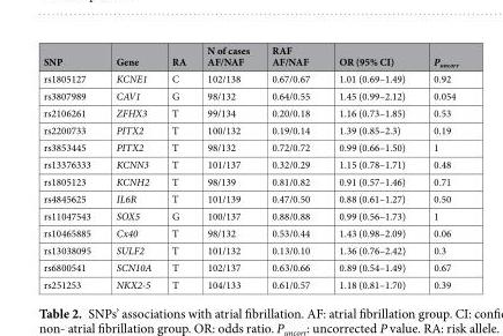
<table><thead><tr><td>SNP</td><td>Gene</td><td>RA</td><td>N of cases AF/NAF</td><td>RAF AF/NAF</td><td>OR (95% CI)</td><td>P<sub>uncorr</sub></td></tr></thead><tbody><tr><td>rs1805127</td><td>KCNE1</td><td>C</td><td>102/138</td><td>0.67/0.67</td><td>1.01 (0.69–1.49)</td><td>0.92</td></tr><tr><td>rs3807989</td><td>CAV1</td><td>G</td><td>98/132</td><td>0.64/0.55</td><td>1.45 (0.99–2.12)</td><td>0.054</td></tr><tr><td>rs2106261</td><td>ZFHX3</td><td>T</td><td>99/134</td><td>0.20/0.18</td><td>1.16 (0.73–1.85)</td><td>0.53</td></tr><tr><td>rs2200733</td><td>PITX2</td><td>T</td><td>100/132</td><td>0.19/0.14</td><td>1.39 (0.85–2.3)</td><td>0.19</td></tr><tr><td>rs3853445</td><td>PITX2</td><td>T</td><td>98/132</td><td>0.72/0.72</td><td>0.99 (0.66–1.50)</td><td>1</td></tr><tr><td>rs13376333</td><td>KCNN3</td><td>T</td><td>101/137</td><td>0.32/0.29</td><td>1.15 (0.78–1.71)</td><td>0.48</td></tr><tr><td>rs1805123</td><td>KCNH2</td><td>T</td><td>98/139</td><td>0.81/0.82</td><td>0.91 (0.57–1.46)</td><td>0.71</td></tr><tr><td>rs4845625</td><td>IL6R</td><td>T</td><td>101/139</td><td>0.47/0.50</td><td>0.88 (0.61–1.27)</td><td>0.50</td></tr><tr><td>rs11047543</td><td>SOX5</td><td>G</td><td>100/137</td><td>0.88/0.88</td><td>0.99 (0.56–1.73)</td><td>1</td></tr><tr><td>rs10465885</td><td>Cx40</td><td>T</td><td>98/132</td><td>0.53/0.44</td><td>1.43 (0.98–2.09)</td><td>0.06</td></tr><tr><td>rs13038095</td><td>SULF2</td><td>T</td><td>101/132</td><td>0.13/0.10</td><td>1.36 (0.76–2.42)</td><td>0.3</td></tr><tr><td>rs6800541</td><td>SCN10A</td><td>T</td><td>102/137</td><td>0.63/0.66</td><td>0.89 (0.54–1.49)</td><td>0.67</td></tr><tr><td>rs251253</td><td>NKX2-5</td><td>T</td><td>104/133</td><td>0.61/0.57</td><td>1.18 (0.81–1.70)</td><td>0.39</td></tr></tbody></table>